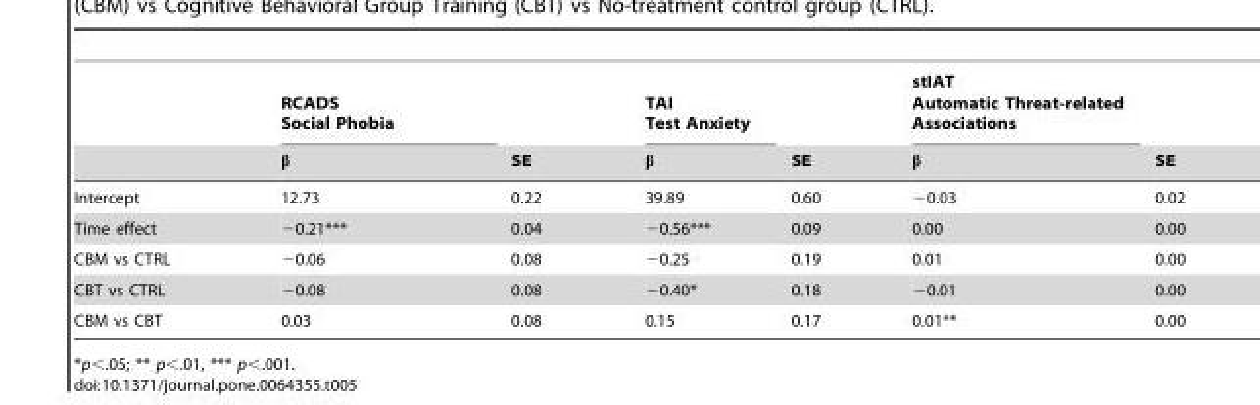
<table><thead><tr><td rowspan="2"></td><td rowspan="2">RCADS Social Phobia β</td><td rowspan="2">SE</td><td rowspan="2">TAI Test Anxiety β</td><td rowspan="2">SE</td><td rowspan="2">stIAT Automatic Threat-related Associations β</td><td rowspan="2">SE</td></tr><tr></tr></thead><tbody><tr><td>Intercept</td><td>12.73</td><td>0.22</td><td>39.89</td><td>0.60</td><td>−0.03</td><td>0.02</td></tr><tr><td>Time effect</td><td>−0.21***</td><td>0.04</td><td>−0.56***</td><td>0.09</td><td>0.00</td><td>0.00</td></tr><tr><td>CBM vs CTRL</td><td>−0.06</td><td>0.08</td><td>−0.25</td><td>0.19</td><td>0.01</td><td>0.00</td></tr><tr><td>CBT vs CTRL</td><td>−0.08</td><td>0.08</td><td>−0.40*</td><td>0.18</td><td>−0.01</td><td>0.00</td></tr><tr><td>CBM vs CBT</td><td>0.03</td><td>0.08</td><td>0.15</td><td>0.17</td><td>0.01**</td><td>0.00</td></tr></tbody></table>